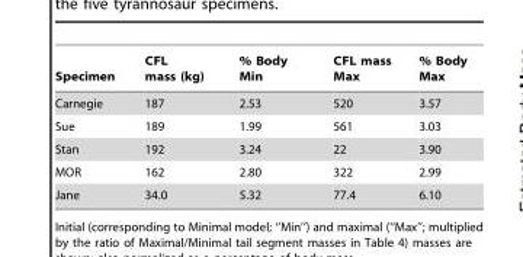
<table><thead><tr><td>Specimen</td><td>CFL mass (kg)</td><td>% Body Min</td><td>CFL mass Max</td><td>% Body Max</td></tr></thead><tbody><tr><td>Carnegie</td><td>187</td><td>2.53</td><td>520</td><td>3.57</td></tr><tr><td>Sue</td><td>189</td><td>1.99</td><td>561</td><td>3.03</td></tr><tr><td>Stan</td><td>192</td><td>3.24</td><td>22</td><td>3.90</td></tr><tr><td>MOR</td><td>162</td><td>2.80</td><td>322</td><td>2.99</td></tr><tr><td>Jane</td><td>34.0</td><td>5.32</td><td>77.4</td><td>6.10</td></tr></tbody></table>